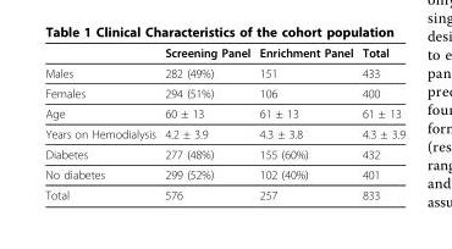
<table><thead><tr><td></td><td>Screening Panel</td><td>Enrichment Panel</td><td>Total</td></tr></thead><tbody><tr><td>Males</td><td>282 (49%)</td><td>151</td><td>433</td></tr><tr><td>Females</td><td>294 (51%)</td><td>106</td><td>400</td></tr><tr><td>Age</td><td>60 ± 13</td><td>61 ± 13</td><td>61 ± 13</td></tr><tr><td>Years on Hemodialysis</td><td>4.2 ± 3.9</td><td>4.3 ± 3.8</td><td>4.3 ± 3.9</td></tr><tr><td>Diabetes</td><td>277 (48%)</td><td>155 (60%)</td><td>432</td></tr><tr><td>No diabetes</td><td>299 (52%)</td><td>102 (40%)</td><td>401</td></tr><tr><td>Total</td><td>576</td><td>257</td><td>833</td></tr></tbody></table>